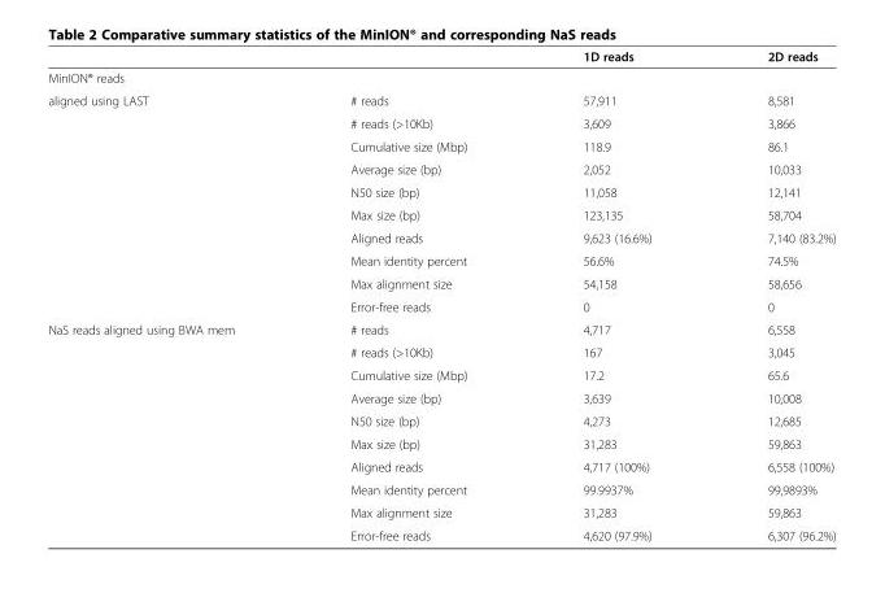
<table><thead><tr><td></td><td></td><td>1D reads</td><td>2D reads</td></tr></thead><tbody><tr><td colspan="4">MinION® reads</td></tr><tr><td rowspan="10">aligned using LAST</td><td># reads</td><td>57,911</td><td>8,581</td></tr><tr><td># reads (&gt;10Kb)</td><td>3,609</td><td>3,866</td></tr><tr><td>Cumulative size (Mbp)</td><td>118.9</td><td>86.1</td></tr><tr><td>Average size (bp)</td><td>2,052</td><td>10,033</td></tr><tr><td>N50 size (bp)</td><td>11,058</td><td>12,141</td></tr><tr><td>Max size (bp)</td><td>123,135</td><td>58,704</td></tr><tr><td>Aligned reads</td><td>9,623 (16.6%)</td><td>7,140 (83.2%)</td></tr><tr><td>Mean identity percent</td><td>56.6%</td><td>74.5%</td></tr><tr><td>Max alignment size</td><td>54,158</td><td>58,656</td></tr><tr><td>Error-free reads</td><td>0</td><td>0</td></tr><tr><td rowspan="10">NaS reads aligned using BWA mem</td><td># reads</td><td>4,717</td><td>6,558</td></tr><tr><td># reads (&gt;10Kb)</td><td>167</td><td>3,045</td></tr><tr><td>Cumulative size (Mbp)</td><td>17.2</td><td>65.6</td></tr><tr><td>Average size (bp)</td><td>3,639</td><td>10,008</td></tr><tr><td>N50 size (bp)</td><td>4,273</td><td>12,685</td></tr><tr><td>Max size (bp)</td><td>31,283</td><td>59,863</td></tr><tr><td>Aligned reads</td><td>4,717 (100%)</td><td>6,558 (100%)</td></tr><tr><td>Mean identity percent</td><td>99.9937%</td><td>99,9893%</td></tr><tr><td>Max alignment size</td><td>31,283</td><td>59,863</td></tr><tr><td>Error-free reads</td><td>4,620 (97.9%)</td><td>6,307 (96.2%)</td></tr></tbody></table>